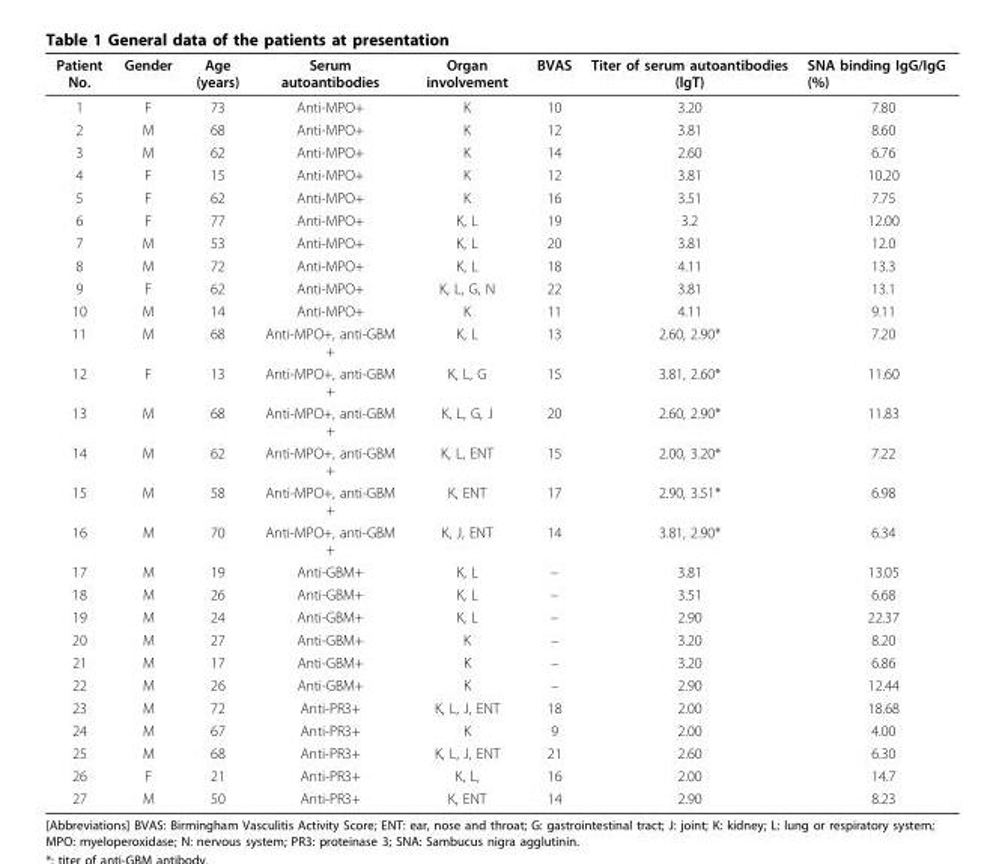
<table><thead><tr><td>Patient No.</td><td>Gender</td><td>Age (years)</td><td>Serum autoantibodies</td><td>Organ involvement</td><td>BVAS</td><td>Titer of serum autoantibodies (lgT)</td><td>SNA binding IgG/IgG (%)</td></tr></thead><tbody><tr><td>1</td><td>F</td><td>73</td><td>Anti-MPO+</td><td>K</td><td>10</td><td>3.20</td><td>7.80</td></tr><tr><td>2</td><td>M</td><td>68</td><td>Anti-MPO+</td><td>K</td><td>12</td><td>3.81</td><td>8.60</td></tr><tr><td>3</td><td>M</td><td>62</td><td>Anti-MPO+</td><td>K</td><td>14</td><td>2.60</td><td>6.76</td></tr><tr><td>4</td><td>F</td><td>15</td><td>Anti-MPO+</td><td>K</td><td>12</td><td>3.81</td><td>10.20</td></tr><tr><td>5</td><td>F</td><td>62</td><td>Anti-MPO+</td><td>K</td><td>16</td><td>3.51</td><td>7.75</td></tr><tr><td>6</td><td>F</td><td>77</td><td>Anti-MPO+</td><td>K, L</td><td>19</td><td>3.2</td><td>12.00</td></tr><tr><td>7</td><td>M</td><td>53</td><td>Anti-MPO+</td><td>K, L</td><td>20</td><td>3.81</td><td>12.0</td></tr><tr><td>8</td><td>M</td><td>72</td><td>Anti-MPO+</td><td>K, L</td><td>18</td><td>4.11</td><td>13.3</td></tr><tr><td>9</td><td>F</td><td>62</td><td>Anti-MPO+</td><td>K, L, G, N</td><td>22</td><td>3.81</td><td>13.1</td></tr><tr><td>10</td><td>M</td><td>14</td><td>Anti-MPO+</td><td>K</td><td>11</td><td>4.11</td><td>9.11</td></tr><tr><td>11</td><td>M</td><td>68</td><td>Anti-MPO+, anti-GBM +</td><td>K, L</td><td>13</td><td>2.60, 2.90*</td><td>7.20</td></tr><tr><td>12</td><td>F</td><td>13</td><td>Anti-MPO+, anti-GBM +</td><td>K, L, G</td><td>15</td><td>3.81, 2.60*</td><td>11.60</td></tr><tr><td>13</td><td>M</td><td>68</td><td>Anti-MPO+, anti-GBM +</td><td>K, L, G, J</td><td>20</td><td>2.60, 2.90*</td><td>11.83</td></tr><tr><td>14</td><td>M</td><td>62</td><td>Anti-MPO+, anti-GBM +</td><td>K, L, ENT</td><td>15</td><td>2.00, 3.20*</td><td>7.22</td></tr><tr><td>15</td><td>M</td><td>58</td><td>Anti-MPO+, anti-GBM +</td><td>K, ENT</td><td>17</td><td>2.90, 3.51*</td><td>6.98</td></tr><tr><td>16</td><td>M</td><td>70</td><td>Anti-MPO+, anti-GBM +</td><td>K, J, ENT</td><td>14</td><td>3.81, 2.90*</td><td>6.34</td></tr><tr><td>17</td><td>M</td><td>19</td><td>Anti-GBM+</td><td>K, L</td><td>–</td><td>3.81</td><td>13.05</td></tr><tr><td>18</td><td>M</td><td>26</td><td>Anti-GBM+</td><td>K, L</td><td>–</td><td>3.51</td><td>6.68</td></tr><tr><td>19</td><td>M</td><td>24</td><td>Anti-GBM+</td><td>K, L</td><td>–</td><td>2.90</td><td>22.37</td></tr><tr><td>20</td><td>M</td><td>27</td><td>Anti-GBM+</td><td>K</td><td>–</td><td>3.20</td><td>8.20</td></tr><tr><td>21</td><td>M</td><td>17</td><td>Anti-GBM+</td><td>K</td><td>–</td><td>3.20</td><td>6.86</td></tr><tr><td>22</td><td>M</td><td>26</td><td>Anti-GBM+</td><td>K</td><td>–</td><td>2.90</td><td>12.44</td></tr><tr><td>23</td><td>M</td><td>72</td><td>Anti-PR3+</td><td>K, L, J, ENT</td><td>18</td><td>2.00</td><td>18.68</td></tr><tr><td>24</td><td>M</td><td>67</td><td>Anti-PR3+</td><td>K</td><td>9</td><td>2.00</td><td>4.00</td></tr><tr><td>25</td><td>M</td><td>68</td><td>Anti-PR3+</td><td>K, L, J, ENT</td><td>21</td><td>2.60</td><td>6.30</td></tr><tr><td>26</td><td>F</td><td>21</td><td>Anti-PR3+</td><td>K, L,</td><td>16</td><td>2.00</td><td>14.7</td></tr><tr><td>27</td><td>M</td><td>50</td><td>Anti-PR3+</td><td>K, ENT</td><td>14</td><td>2.90</td><td>8.23</td></tr></tbody></table>